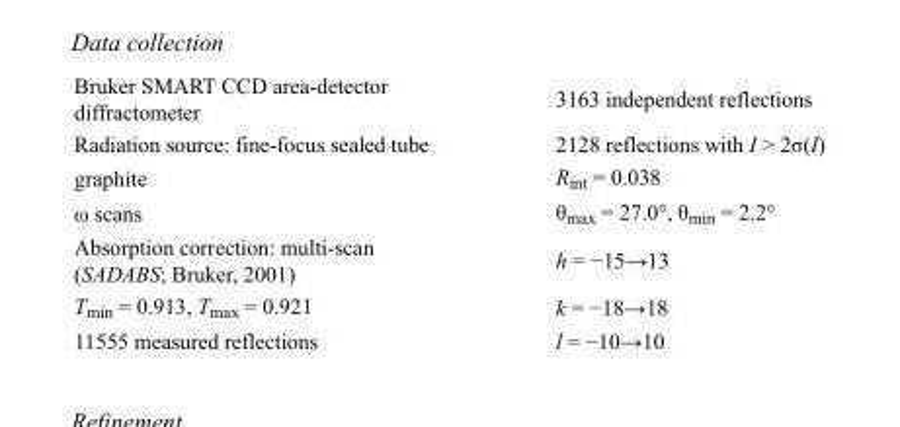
<table><tbody><tr><td>Bruker SMART CCD area-detector diffractometer</td><td>3163 independent reflections</td></tr><tr><td>Radiation source: fine-focus sealed tube</td><td>2128 reflections with I &gt; 2σ(I)</td></tr><tr><td>graphite</td><td>R<sub>int</sub> = 0.038</td></tr><tr><td>ω scans</td><td>θ<sub>max</sub> = 27.0°, θ<sub>min</sub> = 2.2°</td></tr><tr><td>Absorption correction: multi-scan (SADABS; Bruker, 2001)</td><td>h = −15→13</td></tr><tr><td>T<sub>min</sub> = 0.913, T<sub>max</sub> = 0.921</td><td>k = −18→18</td></tr><tr><td>11555 measured reflections</td><td>l = −10→10</td></tr></tbody></table>